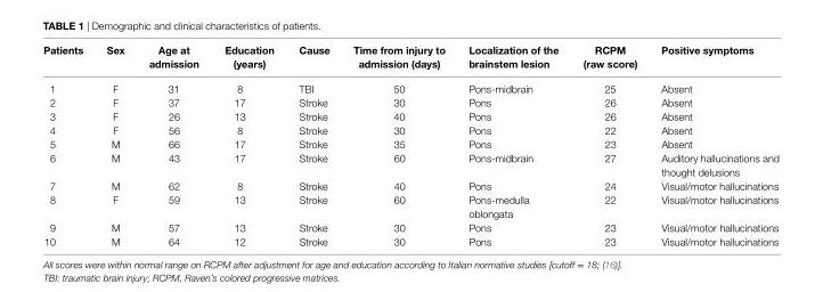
<table><thead><tr><td>Patients</td><td>sex</td><td>age at admission</td><td>education (years)</td><td>cause</td><td>Time from injury to admission (days)</td><td>localization of the brainstem lesion</td><td>rcPM (raw score)</td><td>Positive symptoms</td></tr></thead><tbody><tr><td>1</td><td>F</td><td>31</td><td>8</td><td>TBI</td><td>50</td><td>Pons-midbrain</td><td>25</td><td>Absent</td></tr><tr><td>2</td><td>F</td><td>37</td><td>17</td><td>Stroke</td><td>30</td><td>Pons</td><td>26</td><td>Absent</td></tr><tr><td>3</td><td>F</td><td>26</td><td>13</td><td>Stroke</td><td>40</td><td>Pons</td><td>26</td><td>Absent</td></tr><tr><td>4</td><td>F</td><td>56</td><td>8</td><td>Stroke</td><td>30</td><td>Pons</td><td>22</td><td>Absent</td></tr><tr><td>5</td><td>M</td><td>66</td><td>17</td><td>Stroke</td><td>35</td><td>Pons</td><td>23</td><td>Absent</td></tr><tr><td>6</td><td>M</td><td>43</td><td>17</td><td>Stroke</td><td>60</td><td>Pons-midbrain</td><td>27</td><td>Auditory hallucinations and thought delusions</td></tr><tr><td>7</td><td>M</td><td>62</td><td>8</td><td>Stroke</td><td>40</td><td>Pons</td><td>24</td><td>Visual/motor hallucinations</td></tr><tr><td>8</td><td>F</td><td>59</td><td>13</td><td>Stroke</td><td>60</td><td>Pons-medulla oblongata</td><td>22</td><td>Visual/motor hallucinations</td></tr><tr><td>9</td><td>M</td><td>57</td><td>13</td><td>Stroke</td><td>30</td><td>Pons</td><td>23</td><td>Visual/motor hallucinations</td></tr><tr><td>10</td><td>M</td><td>64</td><td>12</td><td>Stroke</td><td>30</td><td>Pons</td><td>23</td><td>Visual/motor hallucinations</td></tr></tbody></table>